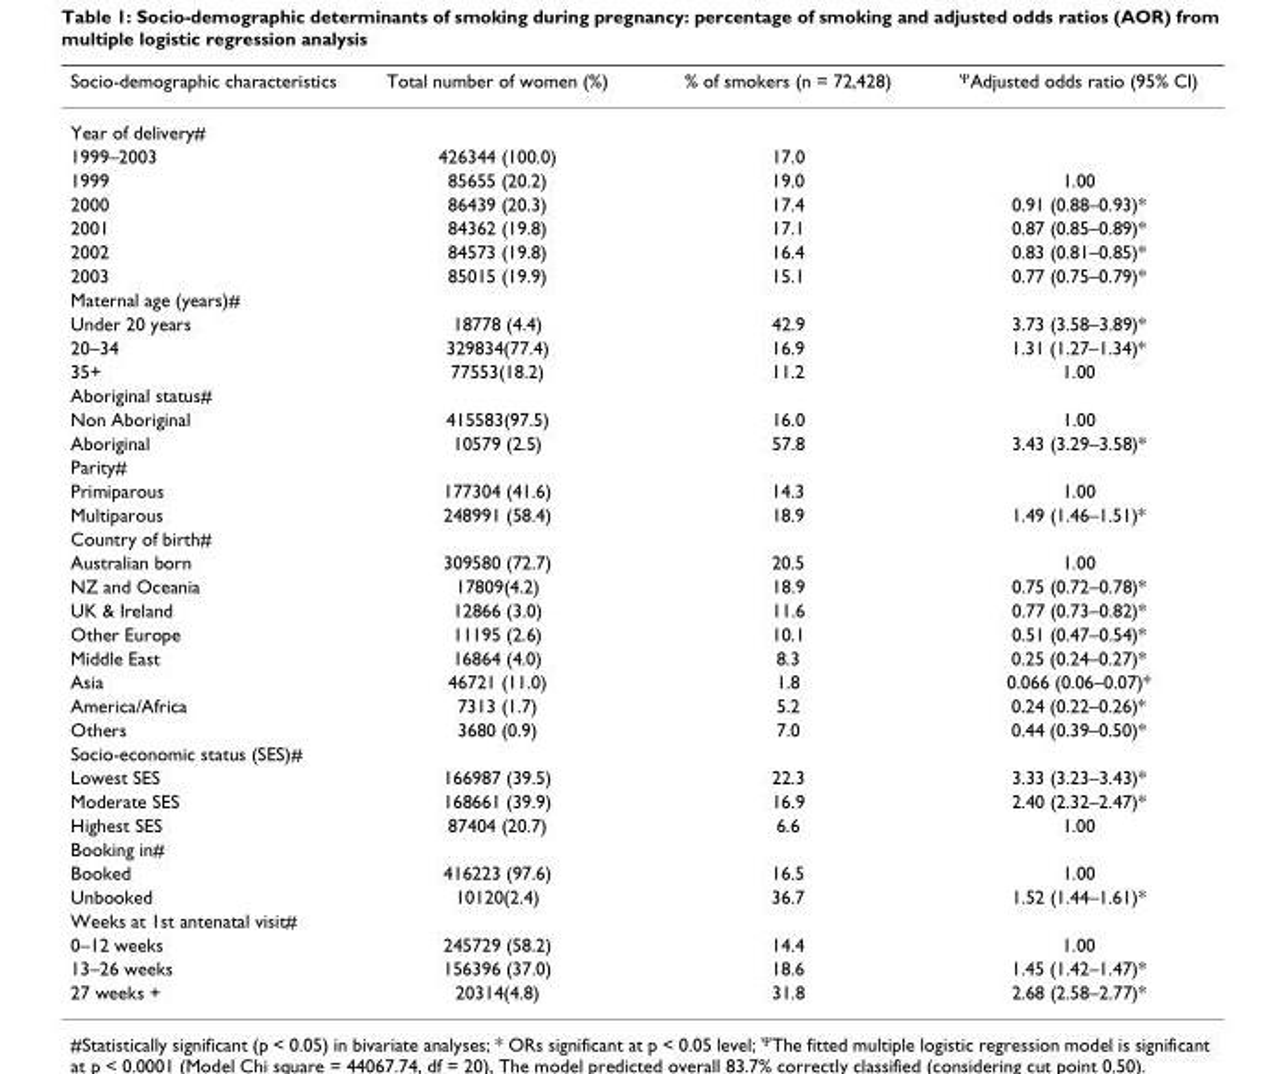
<table><thead><tr><td>Socio-demographic characteristics</td><td>Total number of women (%)</td><td>% of smokers (n = 72,428)</td><td><sup>Ψ</sup>Adjusted odds ratio (95% CI)</td></tr></thead><tbody><tr><td colspan="4">Year of delivery#</td></tr><tr><td>1999–2003</td><td>426344 (100.0)</td><td>17.0</td><td></td></tr><tr><td>1999</td><td>85655 (20.2)</td><td>19.0</td><td>1.00</td></tr><tr><td>2000</td><td>86439 (20.3)</td><td>17.4</td><td>0.91 (0.88–0.93)*</td></tr><tr><td>2001</td><td>84362 (19.8)</td><td>17.1</td><td>0.87 (0.85–0.89)*</td></tr><tr><td>2002</td><td>84573 (19.8)</td><td>16.4</td><td>0.83 (0.81–0.85)*</td></tr><tr><td>2003</td><td>85015 (19.9)</td><td>15.1</td><td>0.77 (0.75–0.79)*</td></tr><tr><td colspan="4">Maternal age (years)#</td></tr><tr><td>Under 20 years</td><td>18778 (4.4)</td><td>42.9</td><td>3.73 (3.58–3.89)*</td></tr><tr><td>20–34</td><td>329834(77.4)</td><td>16.9</td><td>1.31 (1.27–1.34)*</td></tr><tr><td>35+</td><td>77553(18.2)</td><td>11.2</td><td>1.00</td></tr><tr><td colspan="4">Aboriginal status#</td></tr><tr><td>Non Aboriginal</td><td>415583(97.5)</td><td>16.0</td><td>1.00</td></tr><tr><td>Aboriginal</td><td>10579 (2.5)</td><td>57.8</td><td>3.43 (3.29–3.58)*</td></tr><tr><td colspan="4">Parity#</td></tr><tr><td>Primiparous</td><td>177304 (41.6)</td><td>14.3</td><td>1.00</td></tr><tr><td>Multiparous</td><td>248991 (58.4)</td><td>18.9</td><td>1.49 (1.46–1.51)*</td></tr><tr><td colspan="4">Country of birth#</td></tr><tr><td>Australian born</td><td>309580 (72.7)</td><td>20.5</td><td>1.00</td></tr><tr><td>NZ and Oceania</td><td>17809(4.2)</td><td>18.9</td><td>0.75 (0.72–0.78)*</td></tr><tr><td>UK &amp; Ireland</td><td>12866 (3.0)</td><td>11.6</td><td>0.77 (0.73–0.82)*</td></tr><tr><td>Other Europe</td><td>11195 (2.6)</td><td>10.1</td><td>0.51 (0.47–0.54)*</td></tr><tr><td>Middle East</td><td>16864 (4.0)</td><td>8.3</td><td>0.25 (0.24–0.27)*</td></tr><tr><td>Asia</td><td>46721 (11.0)</td><td>1.8</td><td>0.066 (0.06–0.07)*</td></tr><tr><td>America/Africa</td><td>7313 (1.7)</td><td>5.2</td><td>0.24 (0.22–0.26)*</td></tr><tr><td>Others</td><td>3680 (0.9)</td><td>7.0</td><td>0.44 (0.39–0.50)*</td></tr><tr><td colspan="4">Socio-economic status (SES)#</td></tr><tr><td>Lowest SES</td><td>166987 (39.5)</td><td>22.3</td><td>3.33 (3.23–3.43)*</td></tr><tr><td>Moderate SES</td><td>168661 (39.9)</td><td>16.9</td><td>2.40 (2.32–2.47)*</td></tr><tr><td>Highest SES</td><td>87404 (20.7)</td><td>6.6</td><td>1.00</td></tr><tr><td colspan="4">Booking in#</td></tr><tr><td>Booked</td><td>416223 (97.6)</td><td>16.5</td><td>1.00</td></tr><tr><td>Unbooked</td><td>10120(2.4)</td><td>36.7</td><td>1.52 (1.44–1.61)*</td></tr><tr><td colspan="4">Weeks at 1st antenatal visit#</td></tr><tr><td>0–12 weeks</td><td>245729 (58.2)</td><td>14.4</td><td>1.00</td></tr><tr><td>13–26 weeks</td><td>156396 (37.0)</td><td>18.6</td><td>1.45 (1.42–1.47)*</td></tr><tr><td>27 weeks +</td><td>20314(4.8)</td><td>31.8</td><td>2.68 (2.58–2.77)*</td></tr></tbody></table>